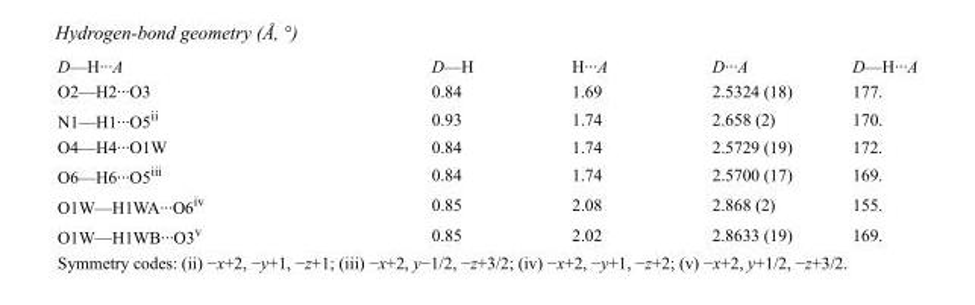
<table><tbody><tr><td>D—H···A</td><td>D—H</td><td>H···A</td><td>D···A</td><td>D—H···A</td></tr><tr><td>O2—H2···O3</td><td>0.84</td><td>1.69</td><td>2.5324 (18)</td><td>177.</td></tr><tr><td>N1—H1···O5<sup>ii</sup></td><td>0.93</td><td>1.74</td><td>2.658 (2)</td><td>170.</td></tr><tr><td>O4—H4···O1W</td><td>0.84</td><td>1.74</td><td>2.5729 (19)</td><td>172.</td></tr><tr><td>O6—H6···O5<sup>iii</sup></td><td>0.84</td><td>1.74</td><td>2.5700 (17)</td><td>169.</td></tr><tr><td>O1W—H1WA···O6<sup>iv</sup></td><td>0.85</td><td>2.08</td><td>2.868 (2)</td><td>155.</td></tr><tr><td>O1W—H1WB···O3<sup>v</sup></td><td>0.85</td><td>2.02</td><td>2.8633 (19)</td><td>169.</td></tr></tbody></table>